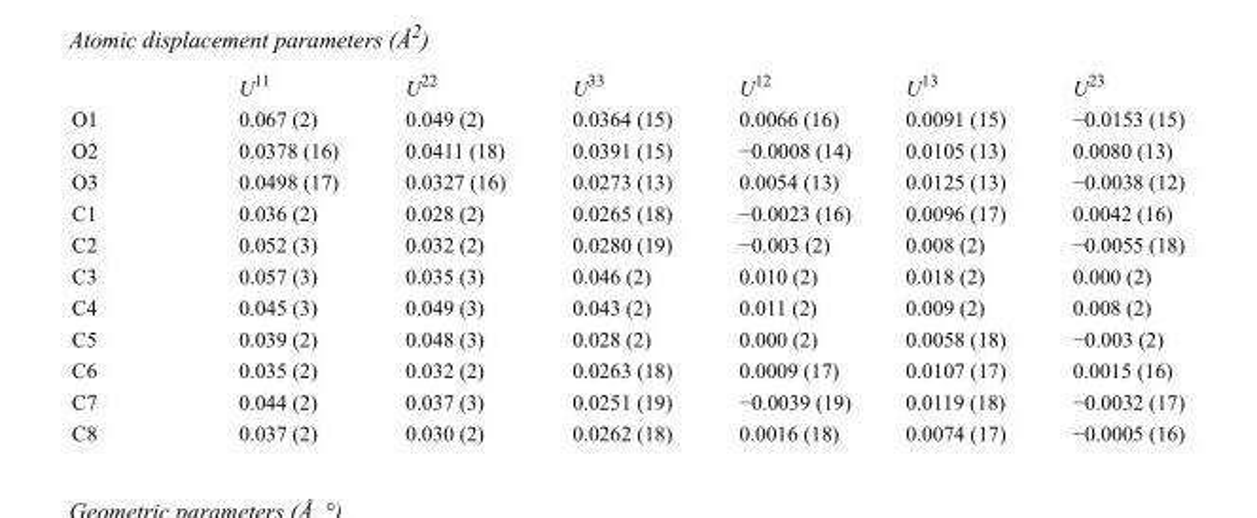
<table><thead><tr><td></td><td>U<sup>11</sup></td><td>U<sup>22</sup></td><td>U<sup>33</sup></td><td>U<sup>12</sup></td><td>U<sup>13</sup></td><td>U<sup>23</sup></td></tr></thead><tbody><tr><td>O1</td><td>0.067 (2)</td><td>0.049 (2)</td><td>0.0364 (15)</td><td>0.0066 (16)</td><td>0.0091 (15)</td><td>−0.0153 (15)</td></tr><tr><td>O2</td><td>0.0378 (16)</td><td>0.0411 (18)</td><td>0.0391 (15)</td><td>−0.0008 (14)</td><td>0.0105 (13)</td><td>0.0080 (13)</td></tr><tr><td>O3</td><td>0.0498 (17)</td><td>0.0327 (16)</td><td>0.0273 (13)</td><td>0.0054 (13)</td><td>0.0125 (13)</td><td>−0.0038 (12)</td></tr><tr><td>C1</td><td>0.036 (2)</td><td>0.028 (2)</td><td>0.0265 (18)</td><td>−0.0023 (16)</td><td>0.0096 (17)</td><td>0.0042 (16)</td></tr><tr><td>C2</td><td>0.052 (3)</td><td>0.032 (2)</td><td>0.0280 (19)</td><td>−0.003 (2)</td><td>0.008 (2)</td><td>−0.0055 (18)</td></tr><tr><td>C3</td><td>0.057 (3)</td><td>0.035 (3)</td><td>0.046 (2)</td><td>0.010 (2)</td><td>0.018 (2)</td><td>0.000 (2)</td></tr><tr><td>C4</td><td>0.045 (3)</td><td>0.049 (3)</td><td>0.043 (2)</td><td>0.011 (2)</td><td>0.009 (2)</td><td>0.008 (2)</td></tr><tr><td>C5</td><td>0.039 (2)</td><td>0.048 (3)</td><td>0.028 (2)</td><td>0.000 (2)</td><td>0.0058 (18)</td><td>−0.003 (2)</td></tr><tr><td>C6</td><td>0.035 (2)</td><td>0.032 (2)</td><td>0.0263 (18)</td><td>0.0009 (17)</td><td>0.0107 (17)</td><td>0.0015 (16)</td></tr><tr><td>C7</td><td>0.044 (2)</td><td>0.037 (3)</td><td>0.0251 (19)</td><td>−0.0039 (19)</td><td>0.0119 (18)</td><td>−0.0032 (17)</td></tr><tr><td>C8</td><td>0.037 (2)</td><td>0.030 (2)</td><td>0.0262 (18)</td><td>0.0016 (18)</td><td>0.0074 (17)</td><td>−0.0005 (16)</td></tr></tbody></table>